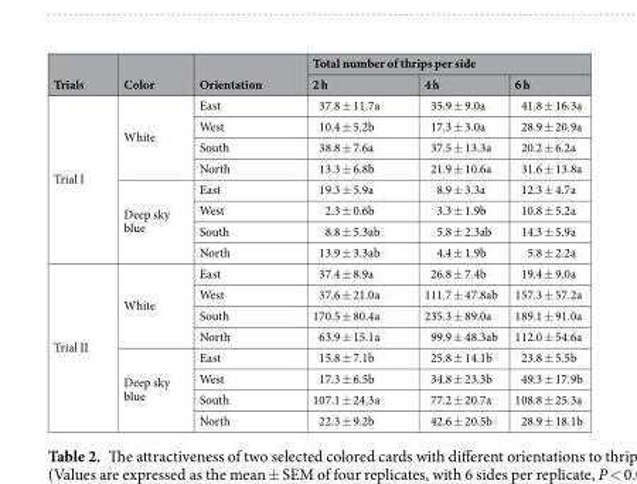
<table><thead><tr><td rowspan="2">Trials</td><td rowspan="2">Color</td><td rowspan="2">Orientation</td><td colspan="3">Total number of thrips per side</td></tr><tr><td>2 h</td><td>4 h</td><td>6 h</td></tr></thead><tbody><tr><td rowspan="8">Trial I</td><td rowspan="4">White</td><td>East</td><td>37.8 ± 11.7a</td><td>35.9 ± 9.0a</td><td>41.8 ± 16.3a</td></tr><tr><td>West</td><td>10.4 ± 5.2b</td><td>17.3 ± 3.0a</td><td>28.9 ± 20.9a</td></tr><tr><td>South</td><td>38.8 ± 7.6a</td><td>37.5 ± 13.3a</td><td>20.2 ± 6.2a</td></tr><tr><td>North</td><td>13.3 ± 6.8b</td><td>21.9 ± 10.6a</td><td>31.6 ± 13.8a</td></tr><tr><td rowspan="4">Deep sky blue</td><td>East</td><td>19.3 ± 5.9a</td><td>8.9 ± 3.3a</td><td>12.3 ± 4.7a</td></tr><tr><td>West</td><td>2.3 ± 0.6b</td><td>3.3 ± 1.9b</td><td>10.8 ± 5.2a</td></tr><tr><td>South</td><td>8.8 ± 5.3ab</td><td>5.8 ± 2.3ab</td><td>14.3 ± 5.9a</td></tr><tr><td>North</td><td>13.9 ± 3.3ab</td><td>4.4 ± 1.9b</td><td>5.8 ± 2.2a</td></tr><tr><td rowspan="8">Trial II</td><td rowspan="4">White</td><td>East</td><td>37.4 ± 8.9a</td><td>26.8 ± 7.4b</td><td>19.4 ± 9.0a</td></tr><tr><td>West</td><td>37.6 ± 21.0a</td><td>111.7 ± 47.8ab</td><td>157.3 ± 57.2a</td></tr><tr><td>South</td><td>170.5 ± 80.4a</td><td>235.3 ± 89.0a</td><td>189.1 ± 91.0a</td></tr><tr><td>North</td><td>63.9 ± 15.1a</td><td>99.9 ± 48.3ab</td><td>112.0 ± 54.6a</td></tr><tr><td rowspan="4">Deep sky blue</td><td>East</td><td>15.8 ± 7.1b</td><td>25.8 ± 14.1b</td><td>23.8 ± 5.5b</td></tr><tr><td>West</td><td>17.3 ± 6.5b</td><td>34.8 ± 23.3b</td><td>49.3 ± 17.9b</td></tr><tr><td>South</td><td>107.1 ± 24.3a</td><td>77.2 ± 20.7a</td><td>108.8 ± 25.3a</td></tr><tr><td>North</td><td>22.3 ± 9.2b</td><td>42.6 ± 20.5b</td><td>28.9 ± 18.1b</td></tr></tbody></table>